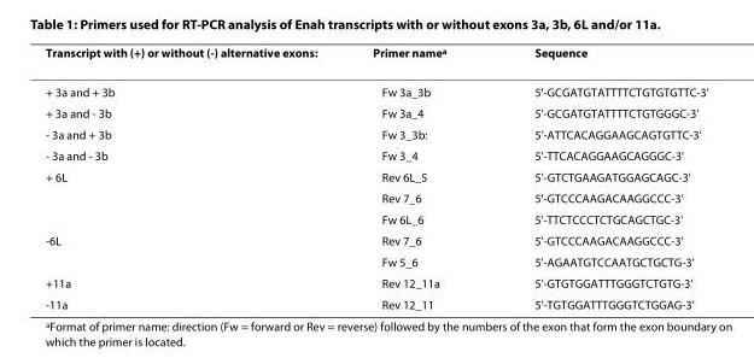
<table><thead><tr><td>Transcript with (+) or without (-) alternative exons:</td><td>Primer name<sup>a</sup></td><td>Sequence</td></tr></thead><tbody><tr><td>+ 3a and + 3b</td><td>Fw 3a_3b</td><td>5&#x27;-GCGATGTATTTTCTGTGTGTTC-3&#x27;</td></tr><tr><td>+ 3a and - 3b</td><td>Fw 3a_4</td><td>5&#x27;-GCGATGTATTTTCTGTGGGC-3&#x27;</td></tr><tr><td>- 3a and + 3b</td><td>Fw 3_3b:</td><td>5&#x27;-ATTCACAGGAAGCAGTGTTC-3&#x27;</td></tr><tr><td>- 3a and - 3b</td><td>Fw 3_4</td><td>5&#x27;-TTCACAGGAAGCAGGGC-3&#x27;</td></tr><tr><td rowspan="3">+ 6L</td><td>Rev 6L_5</td><td>5&#x27;-GTCTGAAGATGGAGCAGC-3&#x27;</td></tr><tr><td>Rev 7_6</td><td>5&#x27;-GTCCCAAGACAAGGCCC-3&#x27;</td></tr><tr><td>Fw 6L_6</td><td>5&#x27;-TTCTCCCTCTGCAGCTGC-3&#x27;</td></tr><tr><td rowspan="2">-6L</td><td>Rev 7_6</td><td>5&#x27;-GTCCCAAGACAAGGCCC-3&#x27;</td></tr><tr><td>Fw 5_6</td><td>5&#x27;-AGAATGTCCAATGCTGCTG-3&#x27;</td></tr><tr><td>+11a</td><td>Rev 12_11a</td><td>5&#x27;-GTGTGGATTTGGGTCTGTG-3&#x27;</td></tr><tr><td>-11a</td><td>Rev 12_11</td><td>5&#x27;-TGTGGATTTGGGTCTGGAG-3&#x27;</td></tr></tbody></table>